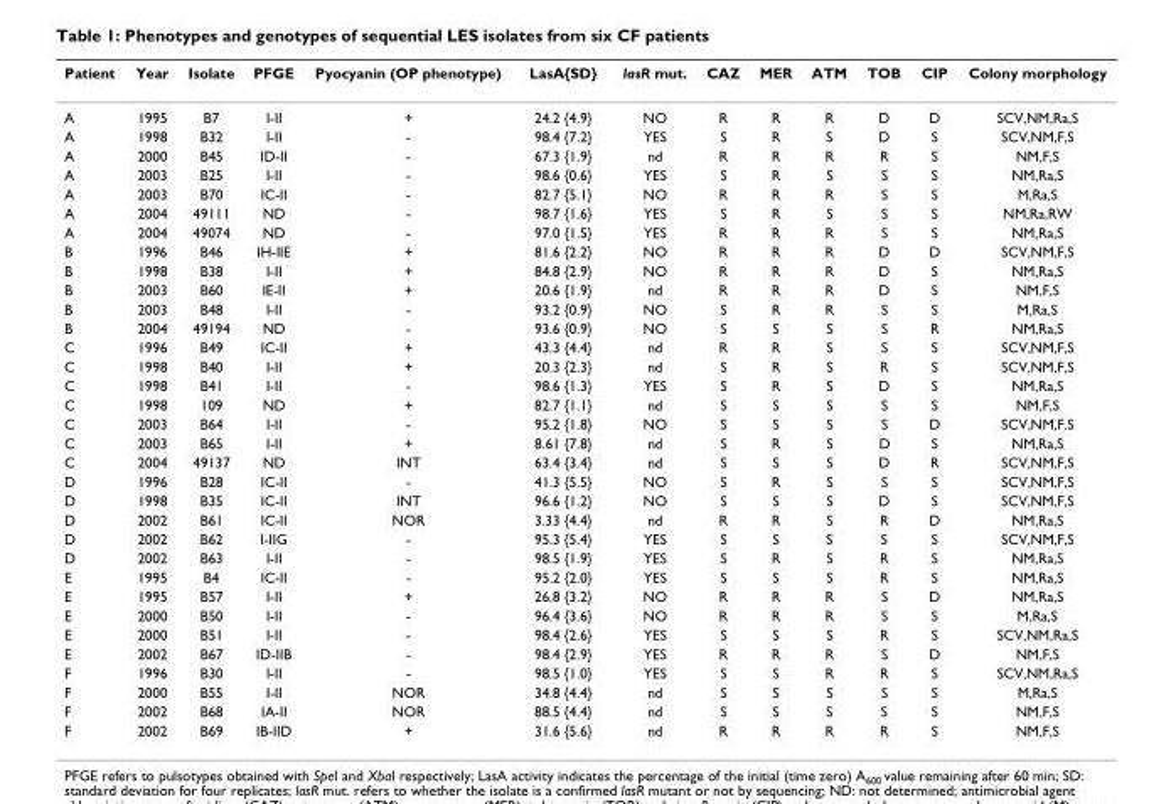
<table><thead><tr><td>Patient</td><td>Year</td><td>Isolate</td><td>PFGE</td><td>Pyocyanin (OP phenotype)</td><td>LasA{SD}</td><td>lasR mut.</td><td>CAZ</td><td>MER</td><td>ATM</td><td>TOB</td><td>CIP</td><td>Colony morphology</td></tr></thead><tbody><tr><td>A</td><td>1995</td><td>B7</td><td>I-II</td><td>+</td><td>24.2 {4.9}</td><td>NO</td><td>R</td><td>R</td><td>R</td><td>D</td><td>D</td><td>SCV,NM,Ra,S</td></tr><tr><td>A</td><td>1998</td><td>B32</td><td>I-II</td><td>-</td><td>98.4 {7.2}</td><td>YES</td><td>S</td><td>R</td><td>S</td><td>D</td><td>S</td><td>SCV,NM,F,S</td></tr><tr><td>A</td><td>2000</td><td>B45</td><td>ID-II</td><td>-</td><td>67.3 {1.9}</td><td>nd</td><td>R</td><td>R</td><td>R</td><td>R</td><td>S</td><td>NM,F,S</td></tr><tr><td>A</td><td>2003</td><td>B25</td><td>I-II</td><td>-</td><td>98.6 {0.6}</td><td>YES</td><td>S</td><td>R</td><td>S</td><td>S</td><td>S</td><td>NM,Ra,S</td></tr><tr><td>A</td><td>2003</td><td>B70</td><td>IC-II</td><td>-</td><td>82.7 {5.1}</td><td>NO</td><td>R</td><td>R</td><td>R</td><td>S</td><td>S</td><td>M,Ra,S</td></tr><tr><td>A</td><td>2004</td><td>49111</td><td>ND</td><td>-</td><td>98.7 {1.6}</td><td>YES</td><td>S</td><td>R</td><td>S</td><td>S</td><td>S</td><td>NM,Ra,RW</td></tr><tr><td>A</td><td>2004</td><td>49074</td><td>ND</td><td>-</td><td>97.0 {1.5}</td><td>YES</td><td>R</td><td>R</td><td>R</td><td>S</td><td>S</td><td>NM,Ra,S</td></tr><tr><td>B</td><td>1996</td><td>B46</td><td>IH-IIE</td><td>+</td><td>81.6 {2.2}</td><td>NO</td><td>R</td><td>R</td><td>R</td><td>D</td><td>D</td><td>SCV,NM,F,S</td></tr><tr><td>B</td><td>1998</td><td>B38</td><td>I-II</td><td>+</td><td>84.8 {2.9}</td><td>NO</td><td>R</td><td>R</td><td>R</td><td>D</td><td>S</td><td>NM,Ra,S</td></tr><tr><td>B</td><td>2003</td><td>B60</td><td>IE-II</td><td>+</td><td>20.6 {1.9}</td><td>nd</td><td>R</td><td>R</td><td>R</td><td>D</td><td>S</td><td>NM,F,S</td></tr><tr><td>B</td><td>2003</td><td>B48</td><td>I-II</td><td>-</td><td>93.2 {0.9}</td><td>NO</td><td>S</td><td>R</td><td>R</td><td>S</td><td>S</td><td>M,Ra,S</td></tr><tr><td>B</td><td>2004</td><td>49194</td><td>ND</td><td>-</td><td>93.6 {0.9}</td><td>NO</td><td>S</td><td>S</td><td>S</td><td>S</td><td>R</td><td>NM,Ra,S</td></tr><tr><td>C</td><td>1996</td><td>B49</td><td>IC-II</td><td>+</td><td>43.3 {4.4}</td><td>nd</td><td>R</td><td>R</td><td>S</td><td>S</td><td>S</td><td>SCV,NM,F,S</td></tr><tr><td>C</td><td>1998</td><td>B40</td><td>I-II</td><td>+</td><td>20.3 {2.3}</td><td>nd</td><td>S</td><td>R</td><td>S</td><td>R</td><td>S</td><td>SCV,NM,F,S</td></tr><tr><td>C</td><td>1998</td><td>B41</td><td>I-II</td><td>-</td><td>98.6 {1.3}</td><td>YES</td><td>S</td><td>R</td><td>S</td><td>D</td><td>S</td><td>NM,Ra,S</td></tr><tr><td>C</td><td>1998</td><td>109</td><td>ND</td><td>+</td><td>82.7 {1.1}</td><td>nd</td><td>S</td><td>S</td><td>S</td><td>S</td><td>S</td><td>NM,F,S</td></tr><tr><td>C</td><td>2003</td><td>B64</td><td>I-II</td><td>-</td><td>95.2 {1.8}</td><td>NO</td><td>S</td><td>S</td><td>S</td><td>S</td><td>D</td><td>SCV,NM,F.S</td></tr><tr><td>C</td><td>2003</td><td>B65</td><td>I-II</td><td>+</td><td>8.61 {7.8}</td><td>nd</td><td>S</td><td>R</td><td>S</td><td>D</td><td>S</td><td>NM,Ra,S</td></tr><tr><td>C</td><td>2004</td><td>49137</td><td>ND</td><td>INT</td><td>63.4 {3.4}</td><td>nd</td><td>S</td><td>S</td><td>S</td><td>D</td><td>R</td><td>SCV,NM,F,S</td></tr><tr><td>D</td><td>1996</td><td>B28</td><td>IC-II</td><td>-</td><td>41.3 {5.5}</td><td>NO</td><td>S</td><td>R</td><td>S</td><td>S</td><td>S</td><td>SCV,NM,F,S</td></tr><tr><td>D</td><td>1998</td><td>B35</td><td>IC-II</td><td>INT</td><td>96.6 {1.2}</td><td>NO</td><td>S</td><td>S</td><td>S</td><td>D</td><td>S</td><td>SCV,NM,F,S</td></tr><tr><td>D</td><td>2002</td><td>B61</td><td>IC-II</td><td>NOR</td><td>3.33 {4.4}</td><td>nd</td><td>R</td><td>R</td><td>S</td><td>R</td><td>D</td><td>NM,Ra,S</td></tr><tr><td>D</td><td>2002</td><td>B62</td><td>I-IIG</td><td>-</td><td>95.3 {5.4}</td><td>YES</td><td>S</td><td>S</td><td>S</td><td>S</td><td>S</td><td>SCV,NM,F,S</td></tr><tr><td>D</td><td>2002</td><td>B63</td><td>I-II</td><td>-</td><td>98.5 {1.9}</td><td>YES</td><td>S</td><td>R</td><td>S</td><td>R</td><td>S</td><td>NM,Ra,S</td></tr><tr><td>E</td><td>1995</td><td>B4</td><td>IC-II</td><td>-</td><td>95.2 {2.0}</td><td>YES</td><td>S</td><td>S</td><td>S</td><td>R</td><td>S</td><td>NM,Ra,S</td></tr><tr><td>E</td><td>1995</td><td>B57</td><td>I-II</td><td>+</td><td>26.8 {3.2}</td><td>NO</td><td>R</td><td>R</td><td>R</td><td>S</td><td>D</td><td>NM,Ra,S</td></tr><tr><td>E</td><td>2000</td><td>B50</td><td>I-II</td><td>-</td><td>96.4 {3.6}</td><td>NO</td><td>R</td><td>R</td><td>R</td><td>S</td><td>S</td><td>M,Ra,S</td></tr><tr><td>E</td><td>2000</td><td>B51</td><td>I-II</td><td>-</td><td>98.4 {2.6}</td><td>YES</td><td>S</td><td>S</td><td>S</td><td>R</td><td>S</td><td>SCV,NM,Ra,S</td></tr><tr><td>E</td><td>2002</td><td>B67</td><td>ID-IIB</td><td>-</td><td>98.4 {2.9}</td><td>YES</td><td>R</td><td>R</td><td>R</td><td>S</td><td>D</td><td>NM,F,S</td></tr><tr><td>F</td><td>1996</td><td>B30</td><td>I-II</td><td>-</td><td>98.5 {1.0}</td><td>YES</td><td>S</td><td>S</td><td>R</td><td>R</td><td>S</td><td>SCV,NM,Ra,S</td></tr><tr><td>F</td><td>2000</td><td>B55</td><td>I-II</td><td>NOR</td><td>34.8 {4.4}</td><td>nd</td><td>S</td><td>S</td><td>S</td><td>S</td><td>S</td><td>M,Ra,S</td></tr><tr><td>F</td><td>2002</td><td>B68</td><td>IA-II</td><td>NOR</td><td>88.5 {4.4}</td><td>nd</td><td>S</td><td>S</td><td>S</td><td>S</td><td>S</td><td>NM,F,S</td></tr><tr><td>F</td><td>2002</td><td>B69</td><td>IB-IID</td><td>+</td><td>31.6 {5.6}</td><td>nd</td><td>R</td><td>R</td><td>R</td><td>R</td><td>S</td><td>NM,F,S</td></tr></tbody></table>